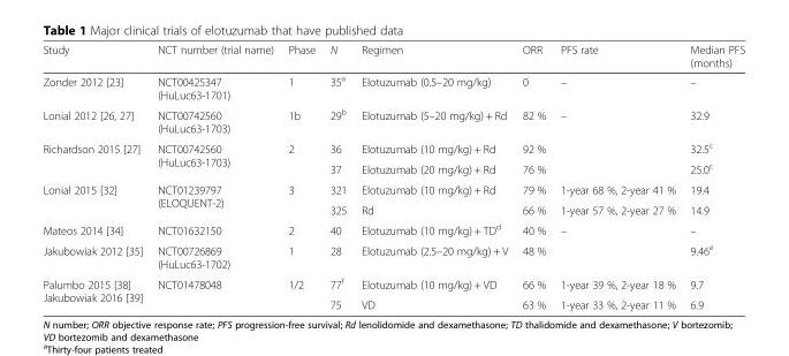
<table><thead><tr><td>Study</td><td>NCT number (trial name)</td><td>Phase</td><td>N</td><td>Regimen</td><td>ORR</td><td>PFS rate</td><td>Median PFS (months)</td></tr></thead><tbody><tr><td>Zonder 2012 [23]</td><td>NCT00425347 (HuLuc63-1701)</td><td>1</td><td>35<sup>a</sup></td><td>Elotuzumab (0.5–20 mg/kg)</td><td>0</td><td>–</td><td>–</td></tr><tr><td>Lonial 2012 [26, 27]</td><td>NCT00742560 (HuLuc63-1703)</td><td>1b</td><td>29<sup>b</sup></td><td>Elotuzumab (5–20 mg/kg) + Rd</td><td>82 %</td><td>–</td><td>32.9</td></tr><tr><td rowspan="2">Richardson 2015 [27]</td><td rowspan="2">NCT00742560 (HuLuc63-1703)</td><td rowspan="2">2</td><td>36</td><td>Elotuzumab (10 mg/kg) + Rd</td><td>92 %</td><td></td><td>32.5<sup>c</sup></td></tr><tr><td>37</td><td>Elotuzumab (20 mg/kg) + Rd</td><td>76 %</td><td></td><td>25.0<sup>c</sup></td></tr><tr><td rowspan="2">Lonial 2015 [32]</td><td rowspan="2">NCT01239797 (ELOQUENT-2)</td><td rowspan="2">3</td><td>321</td><td>Elotuzumab (10 mg/kg) + Rd</td><td>79 %</td><td>1-year 68 %, 2-year 41 %</td><td>19.4</td></tr><tr><td>325</td><td>Rd</td><td>66 %</td><td>1-year 57 %, 2-year 27 %</td><td>14.9</td></tr><tr><td>Mateos 2014 [34]</td><td>NCT01632150</td><td>2</td><td>40</td><td>Elotuzumab (10 mg/kg) + TD<sup>d</sup></td><td>40 %</td><td>–</td><td>–</td></tr><tr><td>Jakubowiak 2012 [35]</td><td>NCT00726869 (HuLuc63-1702)</td><td>1</td><td>28</td><td>Elotuzumab (2.5–20 mg/kg) + V</td><td>48 %</td><td></td><td>9.46<sup>e</sup></td></tr><tr><td rowspan="2">Palumbo 2015 [38] Jakubowiak 2016 [39]</td><td rowspan="2">NCT01478048</td><td rowspan="2">1/2</td><td>77<sup>f</sup></td><td>Elotuzumab (10 mg/kg) + VD</td><td>66 %</td><td>1-year 39 %, 2-year 18 %</td><td>9.7</td></tr><tr><td>75</td><td>VD</td><td>63 %</td><td>1-year 33 %, 2-year 11 %</td><td>6.9</td></tr></tbody></table>